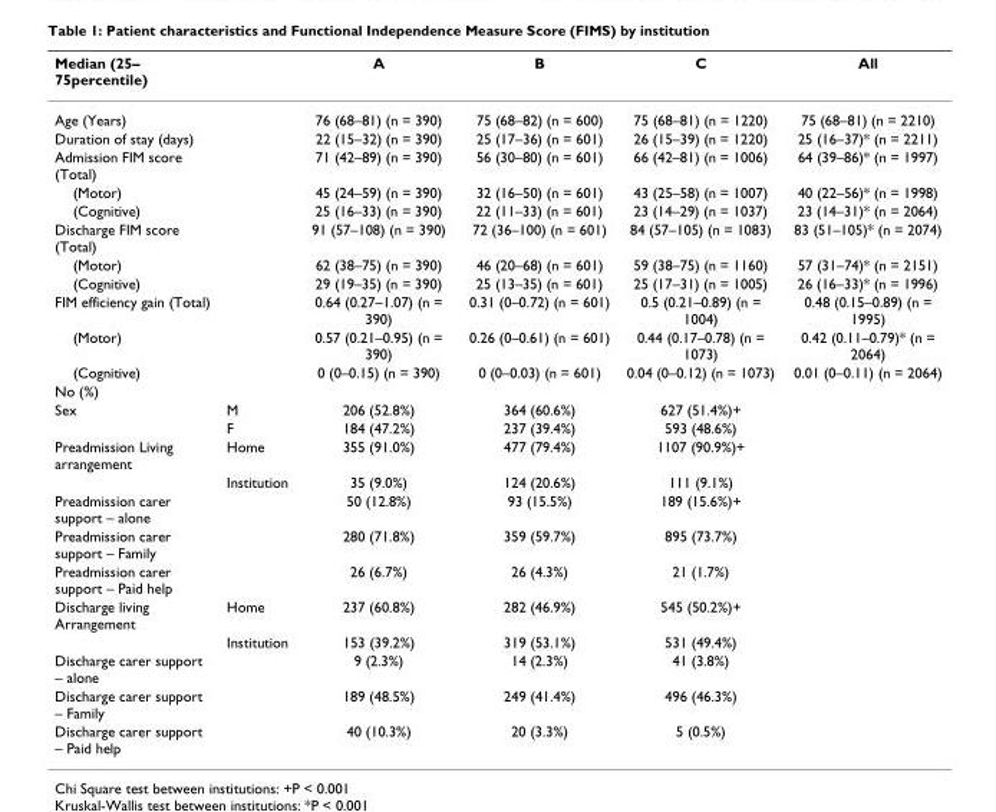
<table><thead><tr><td>Median (25– 75percentile)</td><td></td><td>A</td><td>B</td><td>C</td><td>All</td></tr></thead><tbody><tr><td>Age (Years)</td><td></td><td>76 (68–81) (n = 390)</td><td>75 (68–82) (n = 600)</td><td>75 (68–81) (n = 1220)</td><td>75 (68–81) (n = 2210)</td></tr><tr><td>Duration of stay (days)</td><td></td><td>22 (15–32) (n = 390)</td><td>25 (17–36) (n = 601)</td><td>26 (15–39) (n = 1220)</td><td>25 (16–37)* (n = 2211)</td></tr><tr><td>Admission FIM score (Total)</td><td></td><td>71 (42–89) (n = 390)</td><td>56 (30–80) (n = 601)</td><td>66 (42–81) (n = 1006)</td><td>64 (39–86)* (n = 1997)</td></tr><tr><td>(Motor)</td><td></td><td>45 (24–59) (n = 390)</td><td>32 (16–50) (n = 601)</td><td>43 (25–58) (n = 1007)</td><td>40 (22–56)* (n = 1998)</td></tr><tr><td>(Cognitive)</td><td></td><td>25 (16–33) (n = 390)</td><td>22 (11–33) (n = 601)</td><td>23 (14–29) (n = 1037)</td><td>23 (14–31)* (n = 2064)</td></tr><tr><td>Discharge FIM score (Total)</td><td></td><td>91 (57–108) (n = 390)</td><td>72 (36–100) (n = 601)</td><td>84 (57–105) (n = 1083)</td><td>83 (51–105)* (n = 2074)</td></tr><tr><td>(Motor)</td><td></td><td>62 (38–75) (n = 390)</td><td>46 (20–68) (n = 601)</td><td>59 (38–75) (n = 1160)</td><td>57 (31–74)* (n = 2151)</td></tr><tr><td>(Cognitive)</td><td></td><td>29 (19–35) (n = 390)</td><td>25 (13–35) (n = 601)</td><td>25 (17–31) (n = 1005)</td><td>26 (16–33)* (n = 1996)</td></tr><tr><td>FIM efficiency gain (Total)</td><td></td><td>0.64 (0.27–1.07) (n = 390)</td><td>0.31 (0–0.72) (n = 601)</td><td>0.5 (0.21–0.89) (n = 1004)</td><td>0.48 (0.15–0.89) (n = 1995)</td></tr><tr><td>(Motor)</td><td></td><td>0.57 (0.21–0.95) (n = 390)</td><td>0.26 (0–0.61) (n = 601)</td><td>0.44 (0.17–0.78) (n = 1073)</td><td>0.42 (0.11–0.79)* (n = 2064)</td></tr><tr><td>(Cognitive)</td><td></td><td>0 (0–0.15) (n = 390)</td><td>0 (0–0.03) (n = 601)</td><td>0.04 (0–0.12) (n = 1073)</td><td>0.01 (0–0.11) (n = 2064)</td></tr><tr><td colspan="6">No (%)</td></tr><tr><td rowspan="2">Sex</td><td>M</td><td>206 (52.8%)</td><td>364 (60.6%)</td><td>627 (51.4%)+</td><td></td></tr><tr><td>F</td><td>184 (47.2%)</td><td>237 (39.4%)</td><td>593 (48.6%)</td><td></td></tr><tr><td rowspan="2">Preadmission Living arrangement</td><td>Home</td><td>355 (91.0%)</td><td>477 (79.4%)</td><td>1107 (90.9%)+</td><td></td></tr><tr><td>Institution</td><td>35 (9.0%)</td><td>124 (20.6%)</td><td>111 (9.1%)</td><td></td></tr><tr><td>Preadmission carer support – alone</td><td></td><td>50 (12.8%)</td><td>93 (15.5%)</td><td>189 (15.6%)+</td><td></td></tr><tr><td>Preadmission carer support – Family</td><td></td><td>280 (71.8%)</td><td>359 (59.7%)</td><td>895 (73.7%)</td><td></td></tr><tr><td>Preadmission carer support – Paid help</td><td></td><td>26 (6.7%)</td><td>26 (4.3%)</td><td>21 (1.7%)</td><td></td></tr><tr><td rowspan="2">Discharge living Arrangement</td><td>Home</td><td>237 (60.8%)</td><td>282 (46.9%)</td><td>545 (50.2%)+</td><td></td></tr><tr><td>Institution</td><td>153 (39.2%)</td><td>319 (53.1%)</td><td>531 (49.4%)</td><td></td></tr><tr><td>Discharge carer support – alone</td><td></td><td>9 (2.3%)</td><td>14 (2.3%)</td><td>41 (3.8%)</td><td></td></tr><tr><td>Discharge carer support – Family</td><td></td><td>189 (48.5%)</td><td>249 (41.4%)</td><td>496 (46.3%)</td><td></td></tr><tr><td>Discharge carer support – Paid help</td><td></td><td>40 (10.3%)</td><td>20 (3.3%)</td><td>5 (0.5%)</td><td></td></tr></tbody></table>